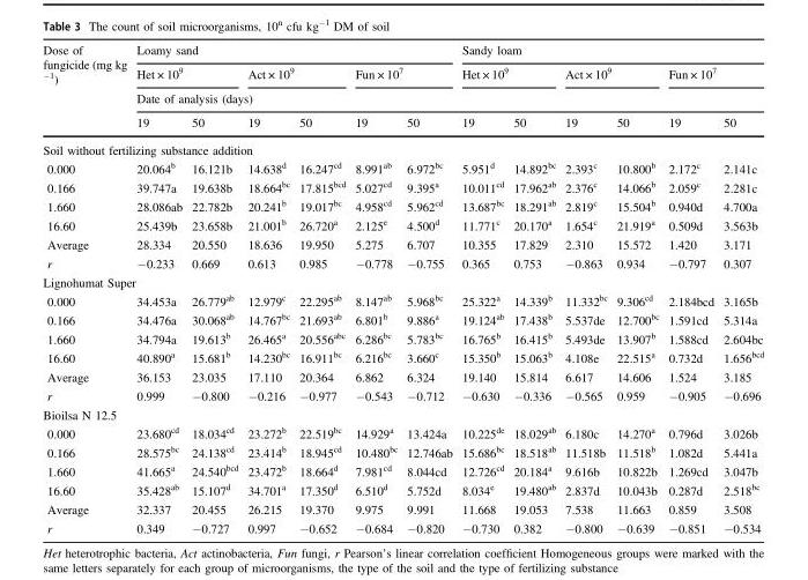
<table><thead><tr><td rowspan="4">Dose of fungicide (mg kg <sup>−1</sup>)</td><td colspan="6">Loamy sand</td><td colspan="6">Sandy loam</td></tr><tr><td colspan="2">Het × 10<sup>9</sup></td><td colspan="2">Act × 10<sup>9</sup></td><td colspan="2">Fun × 10<sup>7</sup></td><td colspan="2">Het × 10<sup>9</sup></td><td colspan="2">Act × 10<sup>9</sup></td><td colspan="2">Fun × 10<sup>7</sup></td></tr><tr><td colspan="12">Date of analysis (days)</td></tr><tr><td>19</td><td>50</td><td>19</td><td>50</td><td>19</td><td>50</td><td>19</td><td>50</td><td>19</td><td>50</td><td>19</td><td>50</td></tr></thead><tbody><tr><td colspan="13">Soil without fertilizing substance addition</td></tr><tr><td>0.000</td><td>20.064<sup>b</sup></td><td>16.121b</td><td>14.638<sup>d</sup></td><td>16.247<sup>cd</sup></td><td>8.991<sup>ab</sup></td><td>6.972<sup>bc</sup></td><td>5.951<sup>d</sup></td><td>14.892<sup>bc</sup></td><td>2.393<sup>c</sup></td><td>10.800<sup>b</sup></td><td>2.172<sup>c</sup></td><td>2.141c</td></tr><tr><td>0.166</td><td>39.747a</td><td>19.638b</td><td>18.664<sup>bc</sup></td><td>17.815<sup>bcd</sup></td><td>5.027<sup>cd</sup></td><td>9.395<sup>a</sup></td><td>10.011<sup>cd</sup></td><td>17.962<sup>ab</sup></td><td>2.376<sup>c</sup></td><td>14.066<sup>b</sup></td><td>2.059<sup>c</sup></td><td>2.281c</td></tr><tr><td>1.660</td><td>28.086ab</td><td>22.782b</td><td>20.241<sup>b</sup></td><td>19.017<sup>bc</sup></td><td>4.958<sup>cd</sup></td><td>5.962<sup>cd</sup></td><td>13.687<sup>bc</sup></td><td>18.291<sup>ab</sup></td><td>2.819<sup>c</sup></td><td>15.504<sup>b</sup></td><td>0.940d</td><td>4.700a</td></tr><tr><td>16.60</td><td>25.439b</td><td>23.658b</td><td>21.001<sup>b</sup></td><td>26.720<sup>a</sup></td><td>2.125<sup>e</sup></td><td>4.500<sup>d</sup></td><td>11.771<sup>c</sup></td><td>20.170<sup>a</sup></td><td>1.654<sup>c</sup></td><td>21.919<sup>a</sup></td><td>0.509d</td><td>3.563b</td></tr><tr><td>Average</td><td>28.334</td><td>20.550</td><td>18.636</td><td>19.950</td><td>5.275</td><td>6.707</td><td>10.355</td><td>17.829</td><td>2.310</td><td>15.572</td><td>1.420</td><td>3.171</td></tr><tr><td>r</td><td>−0.233</td><td>0.669</td><td>0.613</td><td>0.985</td><td>−0.778</td><td>−0.755</td><td>0.365</td><td>0.753</td><td>−0.863</td><td>0.934</td><td>−0.797</td><td>0.307</td></tr><tr><td colspan="13">Lignohumat Super</td></tr><tr><td>0.000</td><td>34.453a</td><td>26.779<sup>ab</sup></td><td>12.979<sup>c</sup></td><td>22.295<sup>ab</sup></td><td>8.147<sup>ab</sup></td><td>5.968<sup>bc</sup></td><td>25.322<sup>a</sup></td><td>14.339<sup>b</sup></td><td>11.332<sup>bc</sup></td><td>9.306<sup>cd</sup></td><td>2.184bcd</td><td>3.165b</td></tr><tr><td>0.166</td><td>34.476a</td><td>30.068<sup>ab</sup></td><td>14.767<sup>bc</sup></td><td>21.693<sup>ab</sup></td><td>6.801<sup>b</sup></td><td>9.886<sup>a</sup></td><td>19.124<sup>ab</sup></td><td>17.438<sup>b</sup></td><td>5.537de</td><td>12.700<sup>bc</sup></td><td>1.591cd</td><td>5.314a</td></tr><tr><td>1.660</td><td>34.794a</td><td>19.613<sup>b</sup></td><td>26.465<sup>a</sup></td><td>20.556<sup>abc</sup></td><td>6.286<sup>bc</sup></td><td>5.783<sup>bc</sup></td><td>16.765<sup>b</sup></td><td>16.415<sup>b</sup></td><td>5.493de</td><td>13.907<sup>b</sup></td><td>1.588cd</td><td>2.604bc</td></tr><tr><td>16.60</td><td>40.890<sup>a</sup></td><td>15.681<sup>b</sup></td><td>14.230<sup>bc</sup></td><td>16.911<sup>bc</sup></td><td>6.216<sup>bc</sup></td><td>3.660<sup>c</sup></td><td>15.350<sup>b</sup></td><td>15.063<sup>b</sup></td><td>4.108e</td><td>22.515<sup>a</sup></td><td>0.732d</td><td>1.656<sup>bcd</sup></td></tr><tr><td>Average</td><td>36.153</td><td>23.035</td><td>17.110</td><td>20.364</td><td>6.862</td><td>6.324</td><td>19.140</td><td>15.814</td><td>6.617</td><td>14.606</td><td>1.524</td><td>3.185</td></tr><tr><td>r</td><td>0.999</td><td>−0.800</td><td>−0.216</td><td>−0.977</td><td>−0.543</td><td>−0.712</td><td>−0.630</td><td>−0.336</td><td>−0.565</td><td>0.959</td><td>−0.905</td><td>−0.696</td></tr><tr><td colspan="13">Bioilsa N 12.5</td></tr><tr><td>0.000</td><td>23.680<sup>cd</sup></td><td>18.034<sup>cd</sup></td><td>23.272<sup>b</sup></td><td>22.519<sup>bc</sup></td><td>14.929<sup>a</sup></td><td>13.424a</td><td>10.225<sup>de</sup></td><td>18.029<sup>ab</sup></td><td>6.180c</td><td>14.270<sup>a</sup></td><td>0.796d</td><td>3.026b</td></tr><tr><td>0.166</td><td>28.575<sup>bc</sup></td><td>24.138<sup>cd</sup></td><td>23.414<sup>b</sup></td><td>18.945<sup>cd</sup></td><td>10.480<sup>bc</sup></td><td>12.746ab</td><td>15.686<sup>bc</sup></td><td>18.518<sup>ab</sup></td><td>11.518b</td><td>11.518<sup>b</sup></td><td>1.082d</td><td>5.441a</td></tr><tr><td>1.660</td><td>41.665<sup>a</sup></td><td>24.540<sup>bcd</sup></td><td>23.472<sup>b</sup></td><td>18.664<sup>d</sup></td><td>7.981<sup>cd</sup></td><td>8.044cd</td><td>12.726<sup>cd</sup></td><td>20.184<sup>a</sup></td><td>9.616b</td><td>10.822b</td><td>1.269cd</td><td>3.047b</td></tr><tr><td>16.60</td><td>35.428<sup>ab</sup></td><td>15.107<sup>d</sup></td><td>34.701<sup>a</sup></td><td>17.350<sup>d</sup></td><td>6.510<sup>d</sup></td><td>5.752d</td><td>8.034<sup>e</sup></td><td>19.480<sup>ab</sup></td><td>2.837d</td><td>10.043b</td><td>0.287d</td><td>2.518<sup>bc</sup></td></tr><tr><td>Average</td><td>32.337</td><td>20.455</td><td>26.215</td><td>19.370</td><td>9.975</td><td>9.991</td><td>11.668</td><td>19.053</td><td>7.538</td><td>11.663</td><td>0.859</td><td>3.508</td></tr><tr><td>r</td><td>0.349</td><td>−0.727</td><td>0.997</td><td>−0.652</td><td>−0.684</td><td>−0.820</td><td>−0.730</td><td>0.382</td><td>−0.800</td><td>−0.639</td><td>−0.851</td><td>−0.534</td></tr></tbody></table>